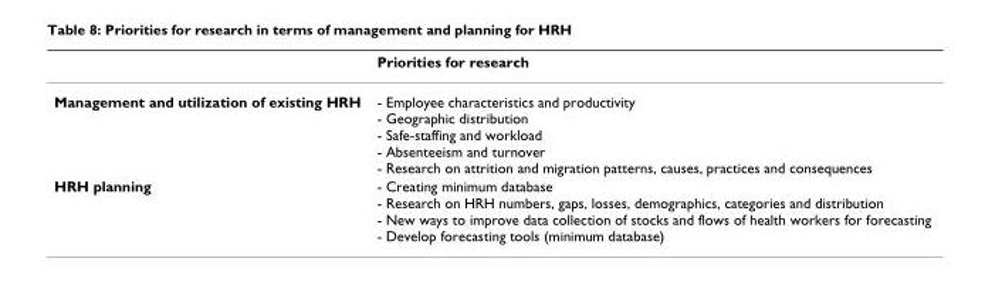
<table><thead><tr><td></td><td>Priorities for research</td></tr></thead><tbody><tr><td>Management and utilization of existing HRH</td><td>- Employee characteristics and productivity - Geographic distribution - Safe-staffing and workload - Absenteeism and turnover - Research on attrition and migration patterns, causes, practices and consequences</td></tr><tr><td>HRH planning</td><td>- Creating minimum database - Research on HRH numbers, gaps, losses, demographics, categories and distribution - New ways to improve data collection of stocks and flows of health workers for forecasting - Develop forecasting tools (minimum database)</td></tr></tbody></table>